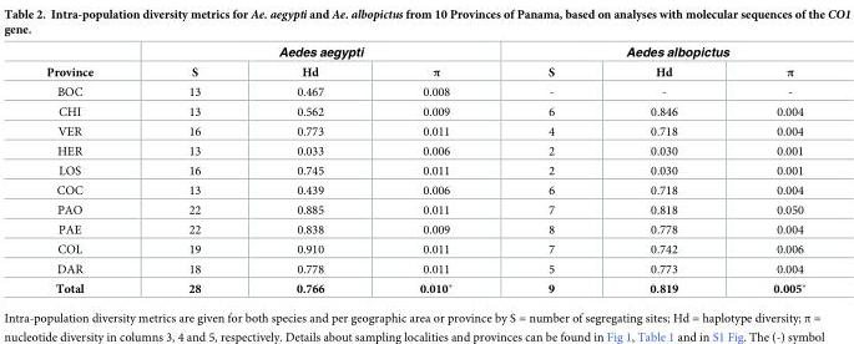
<table><thead><tr><td rowspan="2">Province</td><td colspan="3">Aedes aegypti</td><td colspan="3">Aedes albopictus</td></tr><tr><td>S</td><td>Hd</td><td>π</td><td>S</td><td>Hd</td><td>π</td></tr></thead><tbody><tr><td>BOC</td><td>13</td><td>0.467</td><td>0.008</td><td>-</td><td>-</td><td>-</td></tr><tr><td>CHI</td><td>13</td><td>0.562</td><td>0.009</td><td>6</td><td>0.846</td><td>0.004</td></tr><tr><td>VER</td><td>16</td><td>0.773</td><td>0.011</td><td>4</td><td>0.718</td><td>0.004</td></tr><tr><td>HER</td><td>13</td><td>0.033</td><td>0.006</td><td>2</td><td>0.030</td><td>0.001</td></tr><tr><td>LOS</td><td>16</td><td>0.745</td><td>0.011</td><td>2</td><td>0.030</td><td>0.001</td></tr><tr><td>COC</td><td>13</td><td>0.439</td><td>0.006</td><td>6</td><td>0.718</td><td>0.004</td></tr><tr><td>PAO</td><td>22</td><td>0.885</td><td>0.011</td><td>7</td><td>0.818</td><td>0.050</td></tr><tr><td>PAE</td><td>22</td><td>0.838</td><td>0.009</td><td>8</td><td>0.778</td><td>0.004</td></tr><tr><td>COL</td><td>19</td><td>0.910</td><td>0.011</td><td>7</td><td>0.742</td><td>0.006</td></tr><tr><td>DAR</td><td>18</td><td>0.778</td><td>0.011</td><td>5</td><td>0.773</td><td>0.004</td></tr><tr><td>Total</td><td>28</td><td>0.766</td><td>0.010*</td><td>9</td><td>0.819</td><td>0.005*</td></tr></tbody></table>